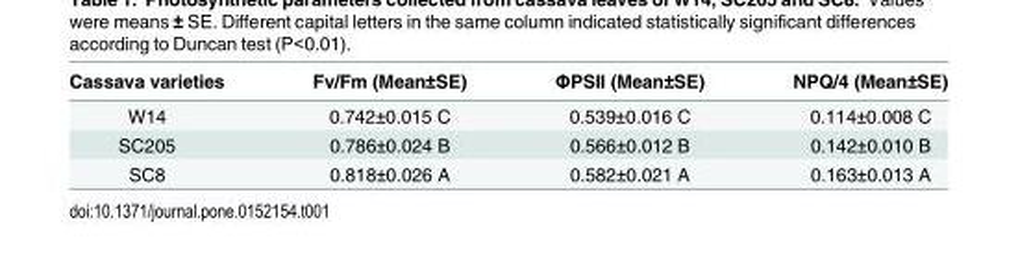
<table><thead><tr><td>Cassava varieties</td><td>Fv/Fm (Mean±SE)</td><td>ΦPSII (Mean±SE)</td><td>NPQ/4 (Mean±SE)</td></tr></thead><tbody><tr><td>W14</td><td>0.742±0.015 C</td><td>0.539±0.016 C</td><td>0.114±0.008 C</td></tr><tr><td>SC205</td><td>0.786±0.024 B</td><td>0.566±0.012 B</td><td>0.142±0.010 B</td></tr><tr><td>SC8</td><td>0.818±0.026 A</td><td>0.582±0.021 A</td><td>0.163±0.013 A</td></tr></tbody></table>